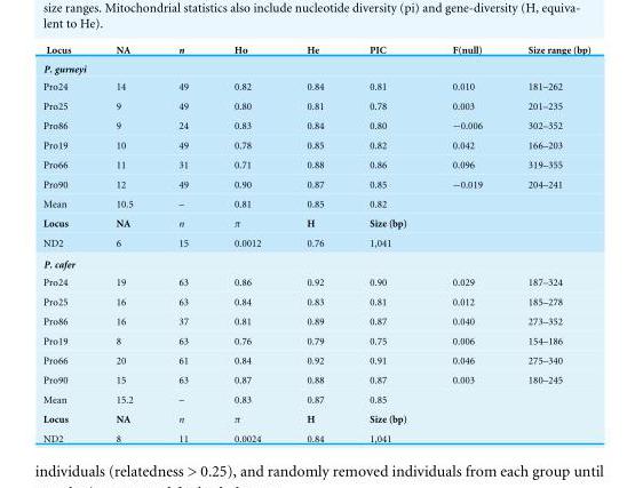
<table><thead><tr><td>Locus</td><td>NA</td><td>n</td><td>Ho</td><td>He</td><td>PIC</td><td>F(null)</td><td>Size range (bp)</td></tr></thead><tbody><tr><td colspan="8">P. gurneyi</td></tr><tr><td>Pro24</td><td>14</td><td>49</td><td>0.82</td><td>0.84</td><td>0.81</td><td>0.010</td><td>181–262</td></tr><tr><td>Pro25</td><td>9</td><td>49</td><td>0.80</td><td>0.81</td><td>0.78</td><td>0.003</td><td>201–235</td></tr><tr><td>Pro86</td><td>9</td><td>24</td><td>0.83</td><td>0.84</td><td>0.80</td><td>−0.006</td><td>302–352</td></tr><tr><td>Pro19</td><td>10</td><td>49</td><td>0.78</td><td>0.85</td><td>0.82</td><td>0.042</td><td>166–203</td></tr><tr><td>Pro66</td><td>11</td><td>31</td><td>0.71</td><td>0.88</td><td>0.86</td><td>0.096</td><td>319–355</td></tr><tr><td>Pro90</td><td>12</td><td>49</td><td>0.90</td><td>0.87</td><td>0.85</td><td>−0.019</td><td>204–241</td></tr><tr><td>Mean</td><td>10.5</td><td>–</td><td>0.81</td><td>0.85</td><td>0.82</td><td></td><td></td></tr><tr><td>Locus</td><td>NA</td><td>n</td><td>π</td><td>H</td><td>Size (bp)</td><td></td><td></td></tr><tr><td>ND2</td><td>6</td><td>15</td><td>0.0012</td><td>0.76</td><td>1,041</td><td></td><td></td></tr><tr><td colspan="8">P. cafer</td></tr><tr><td>Pro24</td><td>19</td><td>63</td><td>0.86</td><td>0.92</td><td>0.90</td><td>0.029</td><td>187–324</td></tr><tr><td>Pro25</td><td>16</td><td>63</td><td>0.84</td><td>0.83</td><td>0.81</td><td>0.012</td><td>185–278</td></tr><tr><td>Pro86</td><td>16</td><td>37</td><td>0.81</td><td>0.89</td><td>0.87</td><td>0.040</td><td>273–352</td></tr><tr><td>Pro19</td><td>8</td><td>63</td><td>0.76</td><td>0.79</td><td>0.75</td><td>0.006</td><td>154–186</td></tr><tr><td>Pro66</td><td>20</td><td>61</td><td>0.84</td><td>0.92</td><td>0.91</td><td>0.046</td><td>275–340</td></tr><tr><td>Pro90</td><td>15</td><td>63</td><td>0.87</td><td>0.88</td><td>0.87</td><td>0.003</td><td>180–245</td></tr><tr><td>Mean</td><td>15.2</td><td>–</td><td>0.83</td><td>0.87</td><td>0.85</td><td></td><td></td></tr><tr><td>Locus</td><td>NA</td><td>n</td><td>π</td><td>H</td><td>Size (bp)</td><td></td><td></td></tr><tr><td>ND2</td><td>8</td><td>11</td><td>0.0024</td><td>0.84</td><td>1,041</td><td></td><td></td></tr></tbody></table>